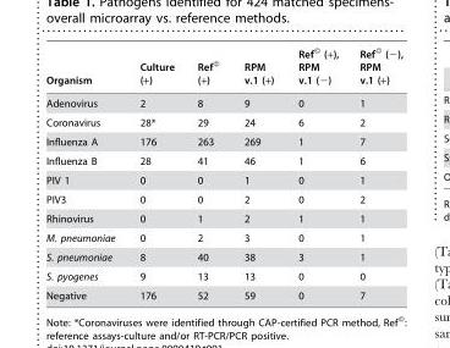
<table><thead><tr><td>Organism</td><td>Culture (+)</td><td>Ref<sup>©</sup> (+)</td><td>RPM v.1 (+)</td><td>Ref<sup>©</sup> (+), RPM v.1 (−)</td><td>Ref<sup>©</sup> (−), RPM v.1 (+)</td></tr></thead><tbody><tr><td>Adenovirus</td><td>2</td><td>8</td><td>9</td><td>0</td><td>1</td></tr><tr><td>Coronavirus</td><td>28*</td><td>29</td><td>24</td><td>6</td><td>2</td></tr><tr><td>Influenza A</td><td>176</td><td>263</td><td>269</td><td>1</td><td>7</td></tr><tr><td>Influenza B</td><td>28</td><td>41</td><td>46</td><td>1</td><td>6</td></tr><tr><td>PIV 1</td><td>0</td><td>0</td><td>1</td><td>0</td><td>1</td></tr><tr><td>PIV3</td><td>0</td><td>0</td><td>2</td><td>0</td><td>2</td></tr><tr><td>Rhinovirus</td><td>0</td><td>1</td><td>2</td><td>1</td><td>1</td></tr><tr><td>M. pneumoniae</td><td>0</td><td>2</td><td>3</td><td>0</td><td>1</td></tr><tr><td>S. pneumoniae</td><td>8</td><td>40</td><td>38</td><td>3</td><td>1</td></tr><tr><td>S. pyogenes</td><td>9</td><td>13</td><td>13</td><td>0</td><td>0</td></tr><tr><td>Negative</td><td>176</td><td>52</td><td>59</td><td>0</td><td>7</td></tr></tbody></table>